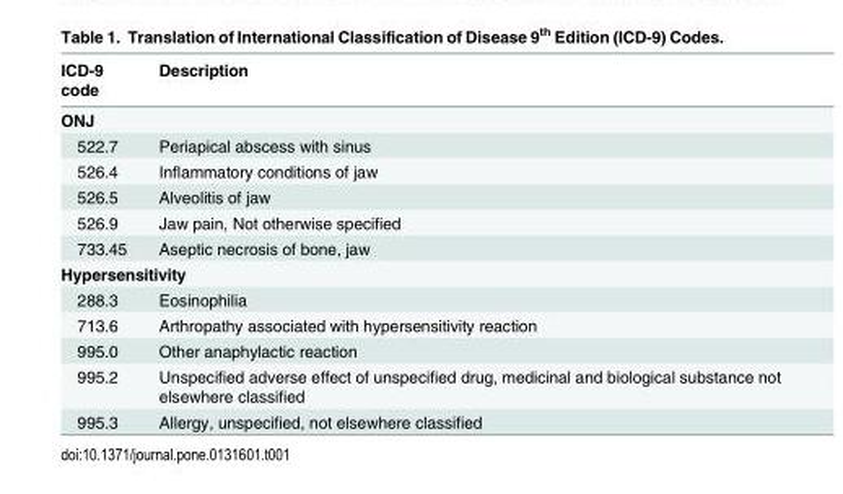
<table><thead><tr><td>ICD-9 code</td><td>Description</td></tr></thead><tbody><tr><td colspan="2">ONJ</td></tr><tr><td>522.7</td><td>Periapical abscess with sinus</td></tr><tr><td>526.4</td><td>Inflammatory conditions of jaw</td></tr><tr><td>526.5</td><td>Alveolitis of jaw</td></tr><tr><td>526.9</td><td>Jaw pain, Not otherwise specified</td></tr><tr><td>733.45</td><td>Aseptic necrosis of bone, jaw</td></tr><tr><td colspan="2">Hypersensitivity</td></tr><tr><td>288.3</td><td>Eosinophilia</td></tr><tr><td>713.6</td><td>Arthropathy associated with hypersensitivity reaction</td></tr><tr><td>995.0</td><td>Other anaphylactic reaction</td></tr><tr><td>995.2</td><td>Unspecified adverse effect of unspecified drug, medicinal and biological substance not elsewhere classified</td></tr><tr><td>995.3</td><td>Allergy, unspecified, not elsewhere classified</td></tr></tbody></table>